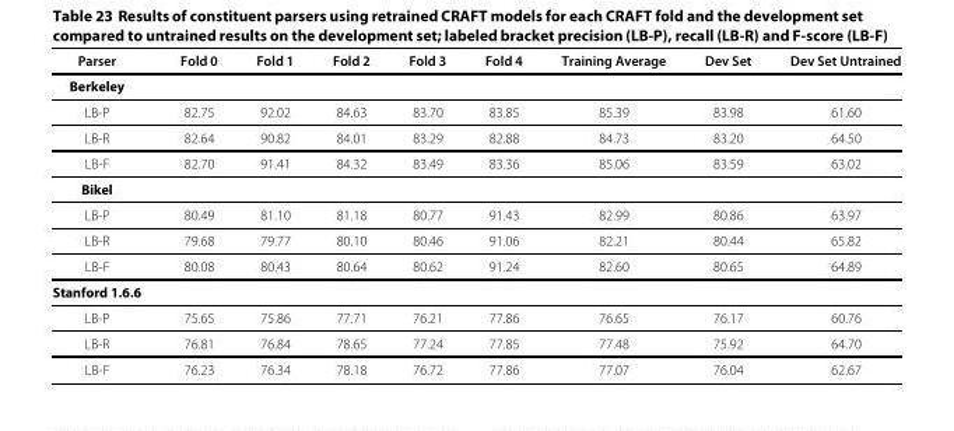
<table><thead><tr><td>Parser</td><td>Fold 0</td><td>Fold 1</td><td>Fold 2</td><td>Fold 3</td><td>Fold 4</td><td>Training Average</td><td>Dev Set</td><td>Dev Set Untrained</td></tr></thead><tbody><tr><td colspan="9">Berkeley</td></tr><tr><td>LB-P</td><td>82.75</td><td>92.02</td><td>84.63</td><td>83.70</td><td>83.85</td><td>85.39</td><td>83.98</td><td>61.60</td></tr><tr><td>LB-R</td><td>82.64</td><td>90.82</td><td>84.01</td><td>83.29</td><td>82.88</td><td>84.73</td><td>83.20</td><td>64.50</td></tr><tr><td>LB-F</td><td>82.70</td><td>91.41</td><td>84.32</td><td>83.49</td><td>83.36</td><td>85.06</td><td>83.59</td><td>63.02</td></tr><tr><td colspan="9">Bikel</td></tr><tr><td>LB-P</td><td>80.49</td><td>81.10</td><td>81.18</td><td>80.77</td><td>91.43</td><td>82.99</td><td>80.86</td><td>63.97</td></tr><tr><td>LB-R</td><td>79.68</td><td>79.77</td><td>80.10</td><td>80.46</td><td>91.06</td><td>82.21</td><td>80.44</td><td>65.82</td></tr><tr><td>LB-F</td><td>80.08</td><td>80.43</td><td>80.64</td><td>80.62</td><td>91.24</td><td>82.60</td><td>80.65</td><td>64.89</td></tr><tr><td colspan="9">Stanford 1.6.6</td></tr><tr><td>LB-P</td><td>75.65</td><td>75.86</td><td>77.71</td><td>76.21</td><td>77.86</td><td>76.65</td><td>76.17</td><td>60.76</td></tr><tr><td>LB-R</td><td>76.81</td><td>76.84</td><td>78.65</td><td>77.24</td><td>77.85</td><td>77.48</td><td>75.92</td><td>64.70</td></tr><tr><td>LB-F</td><td>76.23</td><td>76.34</td><td>78.18</td><td>76.72</td><td>77.86</td><td>77.07</td><td>76.04</td><td>62.67</td></tr></tbody></table>